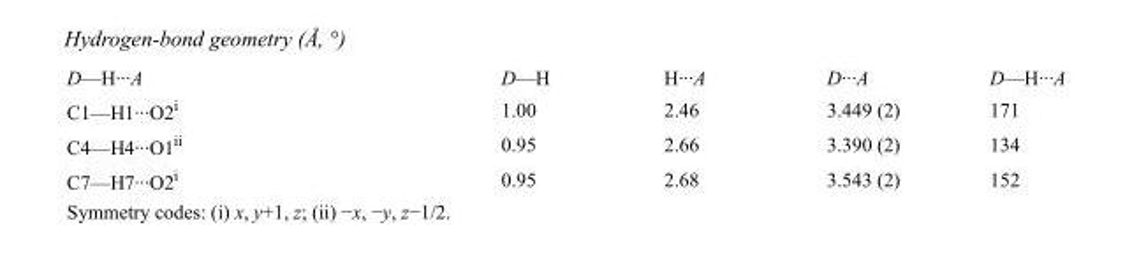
<table><tbody><tr><td>D—H···A</td><td>D—H</td><td>H···A</td><td>D···A</td><td>D—H···A</td></tr><tr><td>C1—H1···O2<sup>i</sup></td><td>1.00</td><td>2.46</td><td>3.449 (2)</td><td>171</td></tr><tr><td>C4—H4···O1<sup>ii</sup></td><td>0.95</td><td>2.66</td><td>3.390 (2)</td><td>134</td></tr><tr><td>C7—H7···O2<sup>i</sup></td><td>0.95</td><td>2.68</td><td>3.543 (2)</td><td>152</td></tr></tbody></table>